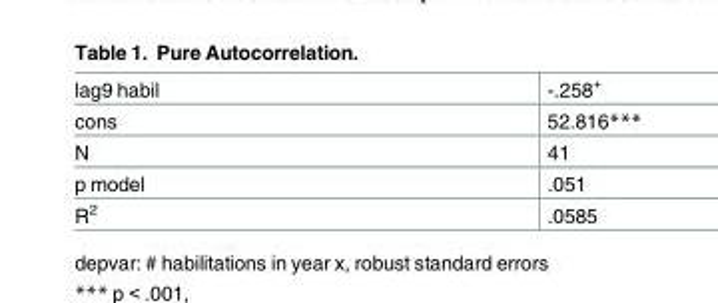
<table><tbody><tr><td>lag9 habil</td><td>-.258<sup>+</sup></td></tr><tr><td>cons</td><td>52.816***</td></tr><tr><td>N</td><td>41</td></tr><tr><td>p model</td><td>.051</td></tr><tr><td>R<sup>2</sup></td><td>.0585</td></tr></tbody></table>